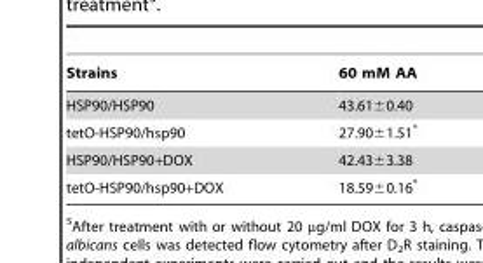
<table><thead><tr><td>Strains</td><td>60 mM AA</td></tr></thead><tbody><tr><td>HSP90/HSP90</td><td>43.61±0.40</td></tr><tr><td>tetO-HSP90/hsp90</td><td>27.90±1.51*</td></tr><tr><td>HSP90/HSP90+DOX</td><td>42.43±3.38</td></tr><tr><td>tetO-HSP90/hsp90+DOX</td><td>18.59±0.16*</td></tr></tbody></table>